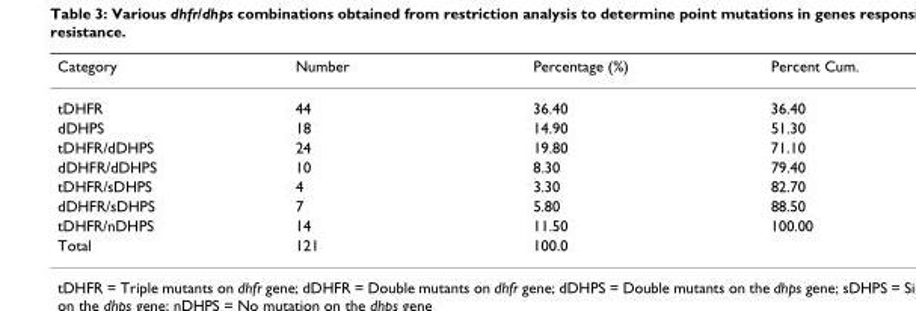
<table><thead><tr><td>Category</td><td>Number</td><td>Percentage (%)</td><td>Percent Cum.</td></tr></thead><tbody><tr><td>tDHFR</td><td>44</td><td>36.40</td><td>36.40</td></tr><tr><td>dDHPS</td><td>18</td><td>14.90</td><td>51.30</td></tr><tr><td>tDHFR/dDHPS</td><td>24</td><td>19.80</td><td>71.10</td></tr><tr><td>dDHFR/dDHPS</td><td>10</td><td>8.30</td><td>79.40</td></tr><tr><td>tDHFR/sDHPS</td><td>4</td><td>3.30</td><td>82.70</td></tr><tr><td>dDHFR/sDHPS</td><td>7</td><td>5.80</td><td>88.50</td></tr><tr><td>tDHFR/nDHPS</td><td>14</td><td>11.50</td><td>100.00</td></tr><tr><td>Total</td><td>121</td><td>100.0</td><td></td></tr></tbody></table>